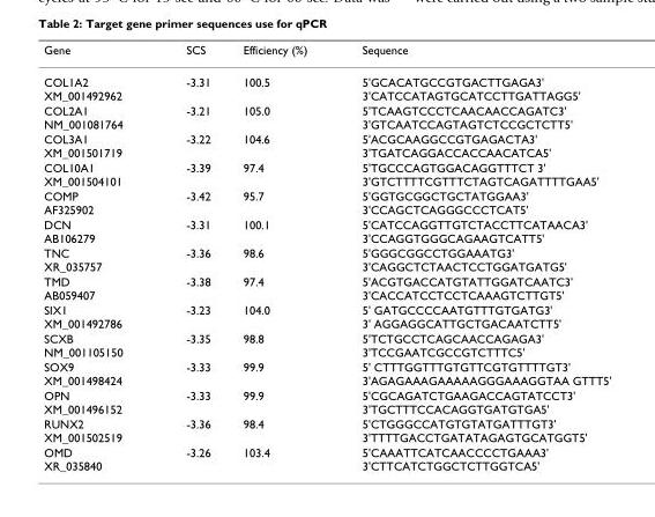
<table><thead><tr><td>Gene</td><td>SCS</td><td>Efficiency (%)</td><td>Sequence</td></tr></thead><tbody><tr><td>COL1A2 XM_001492962</td><td>-3.31</td><td>100.5</td><td>5&#x27;GCACATGCCGTGACTTGAGA3&#x27; 3&#x27;CATCCATAGTGCATCCTTGATTAGG5&#x27;</td></tr><tr><td>COL2A1 NM_001081764</td><td>-3.21</td><td>105.0</td><td>5&#x27;TCAAGTCCCTCAACAACCAGATC3&#x27; 3&#x27;GTCAATCCAGTAGTCTCCGCTCTT5&#x27;</td></tr><tr><td>COL3A1 XM_001501719</td><td>-3.22</td><td>104.6</td><td>5&#x27;ACGCAAGGCCGTGAGACTA3&#x27; 3&#x27;TGATCAGGACCACCAACATCA5&#x27;</td></tr><tr><td>COL10A1 XM_001504101</td><td>-3.39</td><td>97.4</td><td>5&#x27;TGCCCAGTGGACAGGTTTCT 3&#x27; 3&#x27;GTCTTTTCGTTTCTAGTCAGATTTTGAA5&#x27;</td></tr><tr><td>COMP AF325902</td><td>-3.42</td><td>95.7</td><td>5&#x27;GGTGCGGCTGCTATGGAA3&#x27; 3&#x27;CCAGCTCAGGGCCCTCAT5&#x27;</td></tr><tr><td>DCN AB106279</td><td>-3.31</td><td>100.1</td><td>5&#x27;CATCCAGGTTGTCTACCTTCATAACA3&#x27; 3&#x27;CCAGGTGGGCAGAAGTCATT5&#x27;</td></tr><tr><td>TNC XR_035757</td><td>-3.36</td><td>98.6</td><td>5&#x27;GGGCGGCCTGGAAATG3&#x27; 3&#x27;CAGGCTCTAACTCCTGGATGATG5&#x27;</td></tr><tr><td>TMD AB059407</td><td>-3.38</td><td>97.4</td><td>5&#x27;ACGTGACCATGTATTGGATCAATC3&#x27; 3&#x27;CACCATCCTCCTCAAAGTCTTGT5&#x27;</td></tr><tr><td>SIX1 XM_001492786</td><td>-3.23</td><td>104.0</td><td>5&#x27; GATGCCCCAATGTTTGTGATG3&#x27; 3&#x27; AGGAGGCATTGCTGACAATCTT5&#x27;</td></tr><tr><td>SCXB NM_001105150</td><td>-3.35</td><td>98.8</td><td>5&#x27;TCTGCCTCAGCAACCAGAGA3&#x27; 3&#x27;TCCGAATCGCCGTCTTTC5&#x27;</td></tr><tr><td>SOX9 XM_001498424</td><td>-3.33</td><td>99.9</td><td>5&#x27; CTTTGGTTTGTGTTCGTGTTTTGT3&#x27; 3&#x27;AGAGAAAGAAAAAGGGAAAGGTAA GTTT5&#x27;</td></tr><tr><td>OPN XM_001496152</td><td>-3.33</td><td>99.9</td><td>5&#x27;CGCAGATCTGAAGACCAGTATCCT3&#x27; 3&#x27;TGCTTTCCACAGGTGATGTGA5&#x27;</td></tr><tr><td>RUNX2 XM_001502519</td><td>-3.36</td><td>98.4</td><td>5&#x27;CTGGGCCATGTGTATGATTTGT3&#x27; 3&#x27;TTTTGACCTGATATAGAGTGCATGGT5&#x27;</td></tr><tr><td>OMD XR_035840</td><td>-3.26</td><td>103.4</td><td>5&#x27;CAAATTCATCAACCCCTGAAA3&#x27; 3&#x27;CTTCATCTGGCTCTTGGTCA5&#x27;</td></tr></tbody></table>